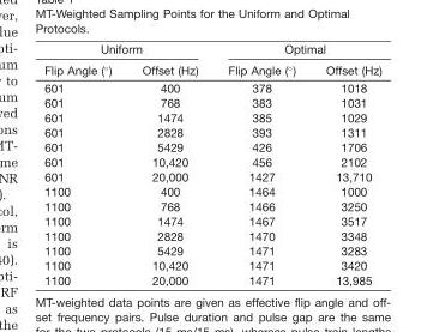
<table><thead><tr><td colspan="2">Uniform</td><td colspan="2">Optimal</td></tr><tr><td>Flip Angle (°)</td><td>Offset (Hz)</td><td>Flip Angle (°)</td><td>Offset (Hz)</td></tr></thead><tbody><tr><td>601</td><td>400</td><td>378</td><td>1018</td></tr><tr><td>601</td><td>768</td><td>383</td><td>1031</td></tr><tr><td>601</td><td>1474</td><td>385</td><td>1029</td></tr><tr><td>601</td><td>2828</td><td>393</td><td>1311</td></tr><tr><td>601</td><td>5429</td><td>426</td><td>1706</td></tr><tr><td>601</td><td>10,420</td><td>456</td><td>2102</td></tr><tr><td>601</td><td>20,000</td><td>1427</td><td>13,710</td></tr><tr><td>1100</td><td>400</td><td>1464</td><td>1000</td></tr><tr><td>1100</td><td>768</td><td>1466</td><td>3250</td></tr><tr><td>1100</td><td>1474</td><td>1467</td><td>3517</td></tr><tr><td>1100</td><td>2828</td><td>1470</td><td>3348</td></tr><tr><td>1100</td><td>5429</td><td>1471</td><td>3283</td></tr><tr><td>1100</td><td>10,420</td><td>1471</td><td>3420</td></tr><tr><td>1100</td><td>20,000</td><td>1471</td><td>13,985</td></tr></tbody></table>